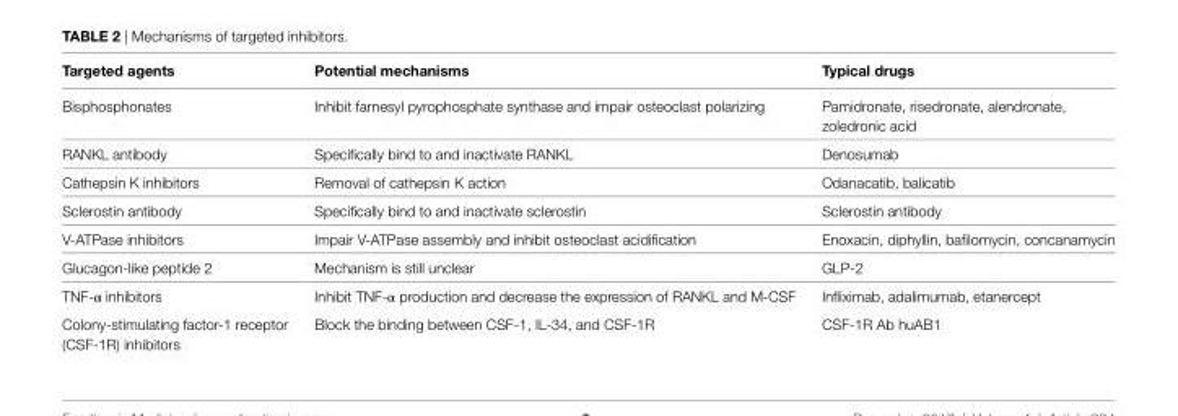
<table><thead><tr><td>Targeted agents</td><td>Potential mechanisms</td><td>Typical drugs</td></tr></thead><tbody><tr><td>Bisphosphonates</td><td>Inhibit farnesyl pyrophosphate synthase and impair osteoclast polarizing</td><td>Pamidronate, risedronate, alendronate, zoledronic acid</td></tr><tr><td>RANKL antibody</td><td>Specifically bind to and inactivate RANKL</td><td>Denosumab</td></tr><tr><td>Cathepsin K inhibitors</td><td>Removal of cathepsin K action</td><td>Odanacatib, balicatib</td></tr><tr><td>Sclerostin antibody</td><td>Specifically bind to and inactivate sclerostin</td><td>Sclerostin antibody</td></tr><tr><td>V-ATPase inhibitors</td><td>Impair V-ATPase assembly and inhibit osteoclast acidification</td><td>Enoxacin, diphyllin, bafilomycin, concanamycin</td></tr><tr><td>Glucagon-like peptide 2</td><td>Mechanism is still unclear</td><td>GLP-2</td></tr><tr><td>TNF-α inhibitors</td><td>Inhibit TNF-α production and decrease the expression of RANKL and M-CSF</td><td>Infliximab, adalimumab, etanercept</td></tr><tr><td>Colony-stimulating factor-1 receptor (CSF-1R) inhibitors</td><td>Block the binding between CSF-1, IL-34, and CSF-1R</td><td>CSF-1R Ab huAB1</td></tr></tbody></table>